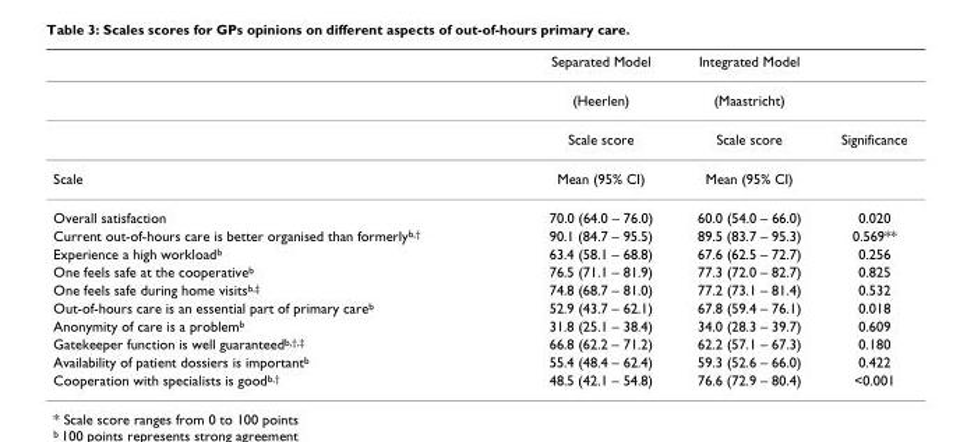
<table><thead><tr><td></td><td>Separated Model</td><td>Integrated Model</td><td></td></tr></thead><tbody><tr><td></td><td>(Heerlen)</td><td>(Maastricht)</td><td></td></tr><tr><td></td><td>Scale score</td><td>Scale score</td><td>Significance</td></tr><tr><td>Scale</td><td>Mean (95% CI)</td><td>Mean (95% CI)</td><td></td></tr><tr><td>Overall satisfaction</td><td>70.0 (64.0 – 76.0)</td><td>60.0 (54.0 – 66.0)</td><td>0.020</td></tr><tr><td>Current out-of-hours care is better organised than formerly<sup>b,†</sup></td><td>90.1 (84.7 – 95.5)</td><td>89.5 (83.7 – 95.3)</td><td>0.569**</td></tr><tr><td>Experience a high workload<sup>b</sup></td><td>63.4 (58.1 – 68.8)</td><td>67.6 (62.5 – 72.7)</td><td>0.256</td></tr><tr><td>One feels safe at the cooperative<sup>b</sup></td><td>76.5 (71.1 – 81.9)</td><td>77.3 (72.0 – 82.7)</td><td>0.825</td></tr><tr><td>One feels safe during home visits<sup>b,‡</sup></td><td>74.8 (68.7 – 81.0)</td><td>77.2 (73.1 – 81.4)</td><td>0.532</td></tr><tr><td>Out-of-hours care is an essential part of primary care<sup>b</sup></td><td>52.9 (43.7 – 62.1)</td><td>67.8 (59.4 – 76.1)</td><td>0.018</td></tr><tr><td>Anonymity of care is a problem<sup>b</sup></td><td>31.8 (25.1 – 38.4)</td><td>34.0 (28.3 – 39.7)</td><td>0.609</td></tr><tr><td>Gatekeeper function is well guaranteed<sup>b,†,‡</sup></td><td>66.8 (62.2 – 71.2)</td><td>62.2 (57.1 – 67.3)</td><td>0.180</td></tr><tr><td>Availability of patient dossiers is important<sup>b</sup></td><td>55.4 (48.4 – 62.4)</td><td>59.3 (52.6 – 66.0)</td><td>0.422</td></tr><tr><td>Cooperation with specialists is good<sup>b,†</sup></td><td>48.5 (42.1 – 54.8)</td><td>76.6 (72.9 – 80.4)</td><td>&lt;0.001</td></tr></tbody></table>